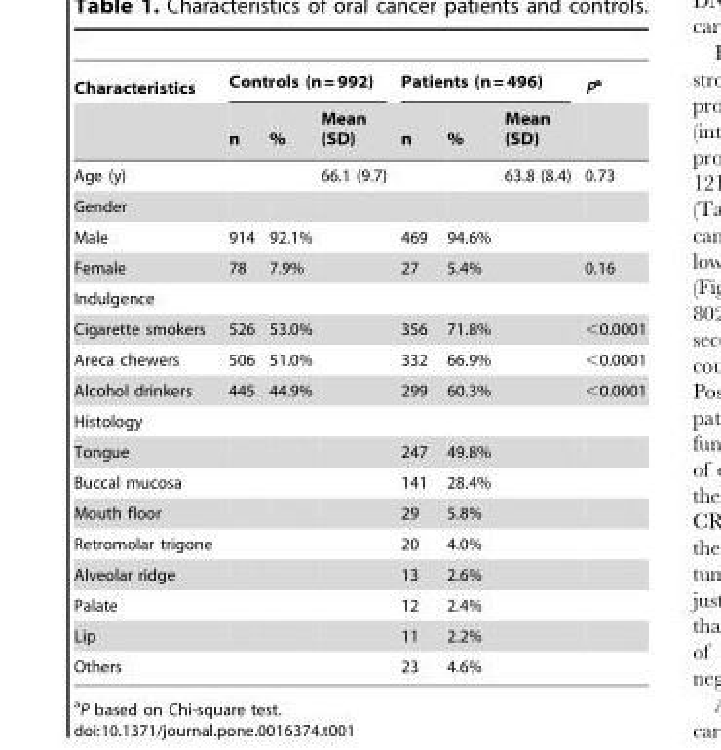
<table><thead><tr><td rowspan="2">Characteristics</td><td colspan="3">Controls (n = 992)</td><td colspan="3">Patients (n = 496)</td><td rowspan="2">Pa</td></tr><tr><td>n</td><td>%</td><td>Mean (SD)</td><td>n</td><td>%</td><td>Mean (SD)</td></tr></thead><tbody><tr><td>Age (y)</td><td></td><td></td><td>66.1 (9.7)</td><td></td><td></td><td>63.8 (8.4)</td><td>0.73</td></tr><tr><td colspan="8">Gender</td></tr><tr><td>Male</td><td>914</td><td>92.1%</td><td></td><td>469</td><td>94.6%</td><td></td><td></td></tr><tr><td>Female</td><td>78</td><td>7.9%</td><td></td><td>27</td><td>5.4%</td><td></td><td>0.16</td></tr><tr><td colspan="8">Indulgence</td></tr><tr><td>Cigarette smokers</td><td>526</td><td>53.0%</td><td></td><td>356</td><td>71.8%</td><td></td><td>&lt;0.0001</td></tr><tr><td>Areca chewers</td><td>506</td><td>51.0%</td><td></td><td>332</td><td>66.9%</td><td></td><td>&lt;0.0001</td></tr><tr><td>Alcohol drinkers</td><td>445</td><td>44.9%</td><td></td><td>299</td><td>60.3%</td><td></td><td>&lt;0.0001</td></tr><tr><td colspan="8">Histology</td></tr><tr><td>Tongue</td><td></td><td></td><td></td><td>247</td><td>49.8%</td><td></td><td></td></tr><tr><td>Buccal mucosa</td><td></td><td></td><td></td><td>141</td><td>28.4%</td><td></td><td></td></tr><tr><td>Mouth floor</td><td></td><td></td><td></td><td>29</td><td>5.8%</td><td></td><td></td></tr><tr><td>Retromolar trigone</td><td></td><td></td><td></td><td>20</td><td>4.0%</td><td></td><td></td></tr><tr><td>Alveolar ridge</td><td></td><td></td><td></td><td>13</td><td>2.6%</td><td></td><td></td></tr><tr><td>Palate</td><td></td><td></td><td></td><td>12</td><td>2.4%</td><td></td><td></td></tr><tr><td>Lip</td><td></td><td></td><td></td><td>11</td><td>2.2%</td><td></td><td></td></tr><tr><td>Others</td><td></td><td></td><td></td><td>23</td><td>4.6%</td><td></td><td></td></tr></tbody></table>